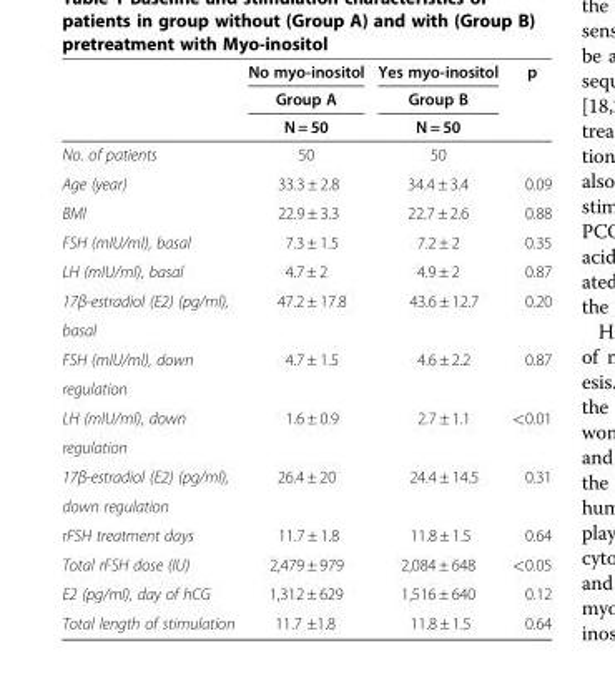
<table><thead><tr><td rowspan="3"></td><td rowspan="3">No myo-inositol Group A N = 50</td><td rowspan="3">Yes myo-inositol Group B N = 50</td><td rowspan="3">p</td></tr><tr></tr><tr></tr></thead><tbody><tr><td>No. of patients</td><td>50</td><td>50</td><td></td></tr><tr><td>Age (year)</td><td>33.3 ± 2.8</td><td>34.4 ± 3.4</td><td>0.09</td></tr><tr><td>BMI</td><td>22.9 ± 3.3</td><td>22.7 ± 2.6</td><td>0.88</td></tr><tr><td>FSH (mIU/ml), basal</td><td>7.3 ± 1.5</td><td>7.2 ± 2</td><td>0.35</td></tr><tr><td>LH (mIU/ml), basal</td><td>4.7 ± 2</td><td>4.9 ± 2</td><td>0.87</td></tr><tr><td>17β-estradiol (E2) (pg/ml),</td><td>47.2 ± 17.8</td><td>43.6 ± 12.7</td><td>0.20</td></tr><tr><td colspan="4">basal</td></tr><tr><td>FSH (mIU/ml), down</td><td>4.7 ± 1.5</td><td>4.6 ± 2.2</td><td>0.87</td></tr><tr><td colspan="4">regulation</td></tr><tr><td>LH (mIU/ml), down</td><td>1.6 ± 0.9</td><td>2.7 ± 1.1</td><td>&lt;0.01</td></tr><tr><td colspan="4">regulation</td></tr><tr><td>17β-estradiol (E2) (pg/ml),</td><td>26.4 ± 20</td><td>24.4 ± 14.5</td><td>0.31</td></tr><tr><td colspan="4">down regulation</td></tr><tr><td>rFSH treatment days</td><td>11.7 ± 1.8</td><td>11.8 ± 1.5</td><td>0.64</td></tr><tr><td>Total rFSH dose (IU)</td><td>2,479 ± 979</td><td>2,084 ± 648</td><td>&lt;0.05</td></tr><tr><td>E2 (pg/ml), day of hCG</td><td>1,312 ± 629</td><td>1,516 ± 640</td><td>0.12</td></tr><tr><td>Total length of stimulation</td><td>11.7 ±1.8</td><td>11.8 ± 1.5</td><td>0.64</td></tr></tbody></table>